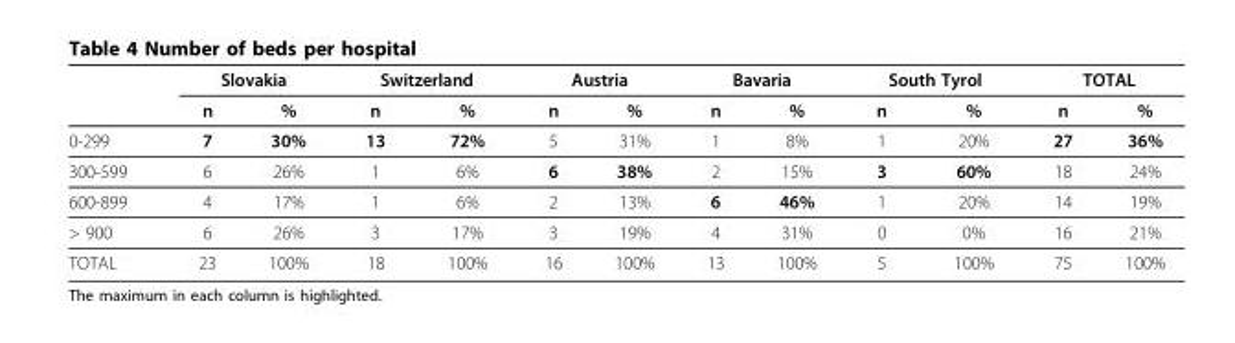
<table><thead><tr><td rowspan="2"></td><td colspan="2">Slovakia</td><td colspan="2">Switzerland</td><td colspan="2">Austria</td><td colspan="2">Bavaria</td><td colspan="2">South Tyrol</td><td colspan="2">TOTAL</td></tr><tr><td>n</td><td>%</td><td>n</td><td>%</td><td>n</td><td>%</td><td>n</td><td>%</td><td>n</td><td>%</td><td>n</td><td>%</td></tr></thead><tbody><tr><td>0-299</td><td>7</td><td>30%</td><td>13</td><td>72%</td><td>5</td><td>31%</td><td>1</td><td>8%</td><td>1</td><td>20%</td><td>27</td><td>36%</td></tr><tr><td>300-599</td><td>6</td><td>26%</td><td>1</td><td>6%</td><td>6</td><td>38%</td><td>2</td><td>15%</td><td>3</td><td>60%</td><td>18</td><td>24%</td></tr><tr><td>600-899</td><td>4</td><td>17%</td><td>1</td><td>6%</td><td>2</td><td>13%</td><td>6</td><td>46%</td><td>1</td><td>20%</td><td>14</td><td>19%</td></tr><tr><td>&gt; 900</td><td>6</td><td>26%</td><td>3</td><td>17%</td><td>3</td><td>19%</td><td>4</td><td>31%</td><td>0</td><td>0%</td><td>16</td><td>21%</td></tr><tr><td>TOTAL</td><td>23</td><td>100%</td><td>18</td><td>100%</td><td>16</td><td>100%</td><td>13</td><td>100%</td><td>5</td><td>100%</td><td>75</td><td>100%</td></tr></tbody></table>